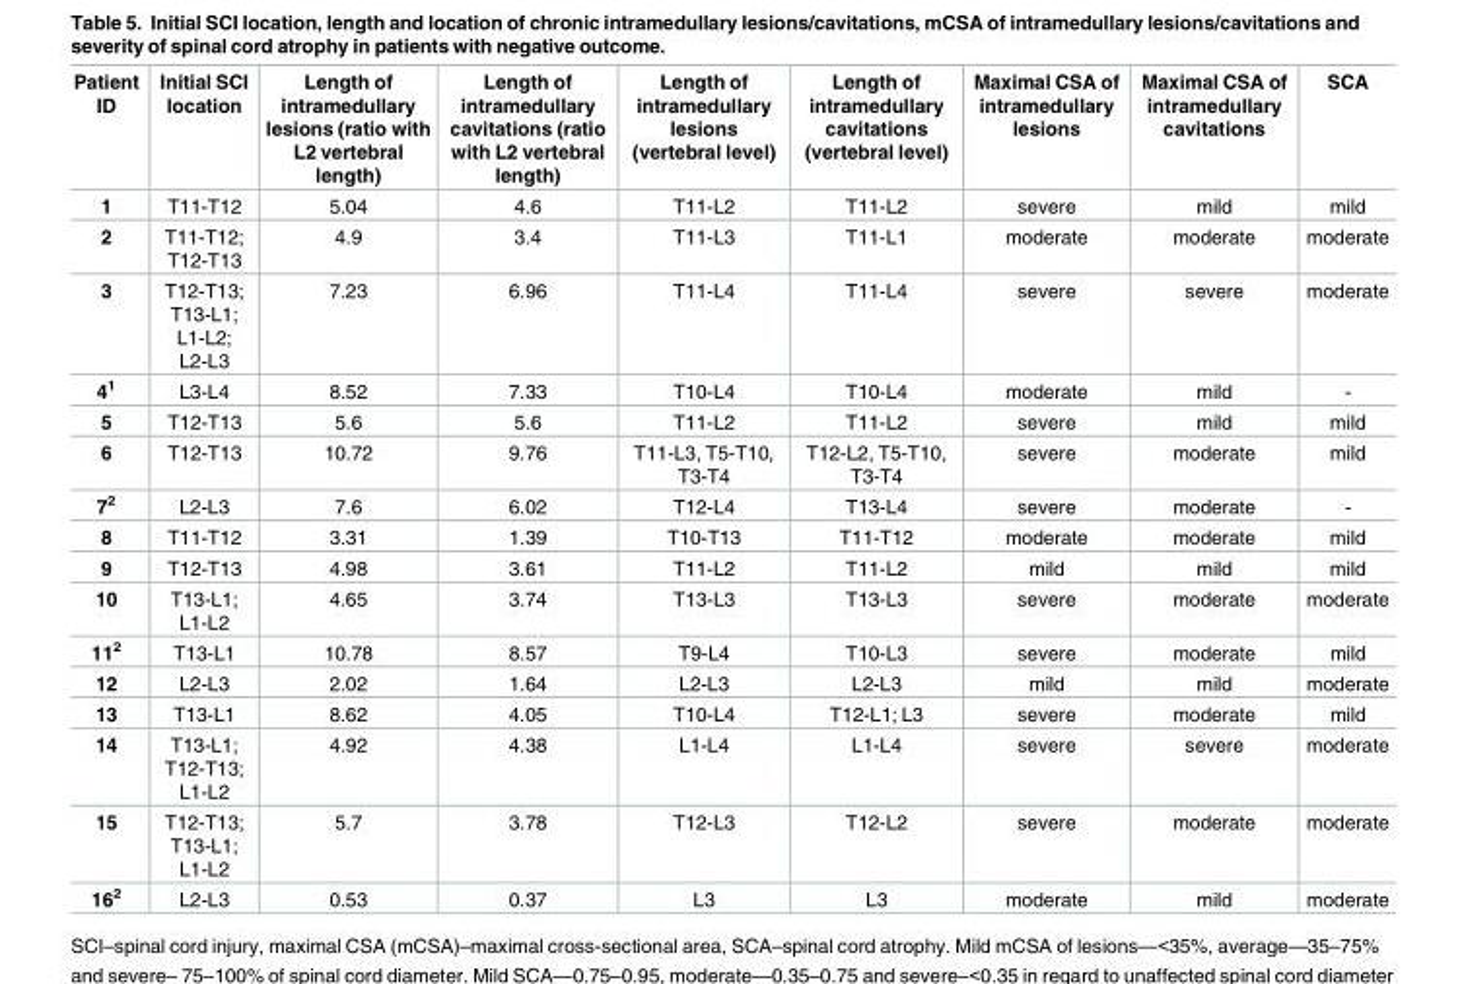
<table><thead><tr><td>Patient ID</td><td>Initial SCI location</td><td>Length of intramedullary lesions (ratio with L2 vertebral length)</td><td>Length of intramedullary cavitations (ratio with L2 vertebral length)</td><td>Length of intramedullary lesions (vertebral level)</td><td>Length of intramedullary cavitations (vertebral level)</td><td>Maximal CSA of intramedullary lesions</td><td>Maximal CSA of intramedullary cavitations</td><td>SCA</td></tr></thead><tbody><tr><td>1</td><td>T11-T12</td><td>5.04</td><td>4.6</td><td>T11-L2</td><td>T11-L2</td><td>severe</td><td>mild</td><td>mild</td></tr><tr><td>2</td><td>T11-T12; T12-T13</td><td>4.9</td><td>3.4</td><td>T11-L3</td><td>T11-L1</td><td>moderate</td><td>moderate</td><td>moderate</td></tr><tr><td>3</td><td>T12-T13; T13-L1; L1-L2; L2-L3</td><td>7.23</td><td>6.96</td><td>T11-L4</td><td>T11-L4</td><td>severe</td><td>severe</td><td>moderate</td></tr><tr><td>4<sup>1</sup></td><td>L3-L4</td><td>8.52</td><td>7.33</td><td>T10-L4</td><td>T10-L4</td><td>moderate</td><td>mild</td><td>-</td></tr><tr><td>5</td><td>T12-T13</td><td>5.6</td><td>5.6</td><td>T11-L2</td><td>T11-L2</td><td>severe</td><td>mild</td><td>mild</td></tr><tr><td>6</td><td>T12-T13</td><td>10.72</td><td>9.76</td><td>T11-L3, T5-T10, T3-T4</td><td>T12-L2, T5-T10, T3-T4</td><td>severe</td><td>moderate</td><td>mild</td></tr><tr><td>7<sup>2</sup></td><td>L2-L3</td><td>7.6</td><td>6.02</td><td>T12-L4</td><td>T13-L4</td><td>severe</td><td>moderate</td><td>-</td></tr><tr><td>8</td><td>T11-T12</td><td>3.31</td><td>1.39</td><td>T10-T13</td><td>T11-T12</td><td>moderate</td><td>moderate</td><td>mild</td></tr><tr><td>9</td><td>T12-T13</td><td>4.98</td><td>3.61</td><td>T11-L2</td><td>T11-L2</td><td>mild</td><td>mild</td><td>mild</td></tr><tr><td>10</td><td>T13-L1; L1-L2</td><td>4.65</td><td>3.74</td><td>T13-L3</td><td>T13-L3</td><td>severe</td><td>moderate</td><td>moderate</td></tr><tr><td>11<sup>2</sup></td><td>T13-L1</td><td>10.78</td><td>8.57</td><td>T9-L4</td><td>T10-L3</td><td>severe</td><td>moderate</td><td>mild</td></tr><tr><td>12</td><td>L2-L3</td><td>2.02</td><td>1.64</td><td>L2-L3</td><td>L2-L3</td><td>mild</td><td>mild</td><td>moderate</td></tr><tr><td>13</td><td>T13-L1</td><td>8.62</td><td>4.05</td><td>T10-L4</td><td>T12-L1; L3</td><td>severe</td><td>moderate</td><td>mild</td></tr><tr><td>14</td><td>T13-L1; T12-T13; L1-L2</td><td>4.92</td><td>4.38</td><td>L1-L4</td><td>L1-L4</td><td>severe</td><td>severe</td><td>moderate</td></tr><tr><td>15</td><td>T12-T13; T13-L1; L1-L2</td><td>5.7</td><td>3.78</td><td>T12-L3</td><td>T12-L2</td><td>severe</td><td>moderate</td><td>moderate</td></tr><tr><td>16<sup>2</sup></td><td>L2-L3</td><td>0.53</td><td>0.37</td><td>L3</td><td>L3</td><td>moderate</td><td>mild</td><td>moderate</td></tr></tbody></table>